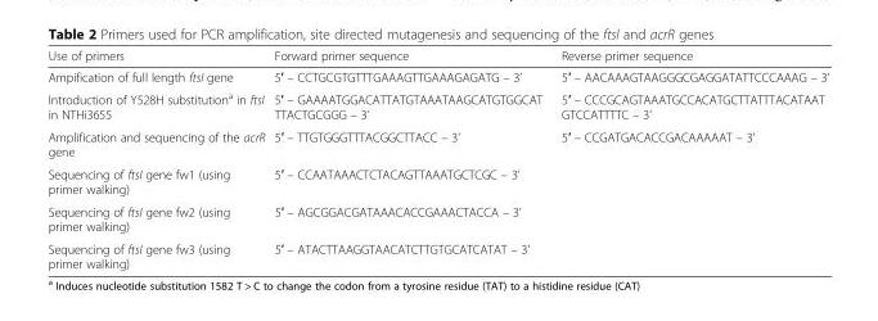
<table><thead><tr><td>Use of primers</td><td>Forward primer sequence</td><td>Reverse primer sequence</td></tr></thead><tbody><tr><td>Ampification of full length ftsI gene</td><td>5′ – CCTGCGTGTTTGAAAGTTGAAAGAGATG – 3’</td><td>5′ – AACAAAGTAAGGGCGAGGATATTCCCAAAG – 3’</td></tr><tr><td>Introduction of Y528H substitution<sup>a</sup> in ftsI in NTHi3655</td><td>5′ – GAAAATGGACATTATGTAAATAAGCATGTGGCAT TTACTGCGGG – 3’</td><td>5′ – CCCGCAGTAAATGCCACATGCTTATTTACATAAT GTCCATTTTC – 3’</td></tr><tr><td>Amplification and sequencing of the acrR gene</td><td>5′ – TTGTGGGTTTACGGCTTACC – 3’</td><td>5′ – CCGATGACACCGACAAAAAT – 3’</td></tr><tr><td>Sequencing of ftsI gene fw1 (using primer walking)</td><td>5′ – CCAATAAACTCTACAGTTAAATGCTCGC – 3’</td><td></td></tr><tr><td>Sequencing of ftsI gene fw2 (using primer walking)</td><td>5′ – AGCGGACGATAAACACCGAAACTACCA – 3’</td><td></td></tr><tr><td>Sequencing of ftsI gene fw3 (using primer walking)</td><td>5′ – ATACTTAAGGTAACATCTTGTGCATCATAT – 3’</td><td></td></tr></tbody></table>